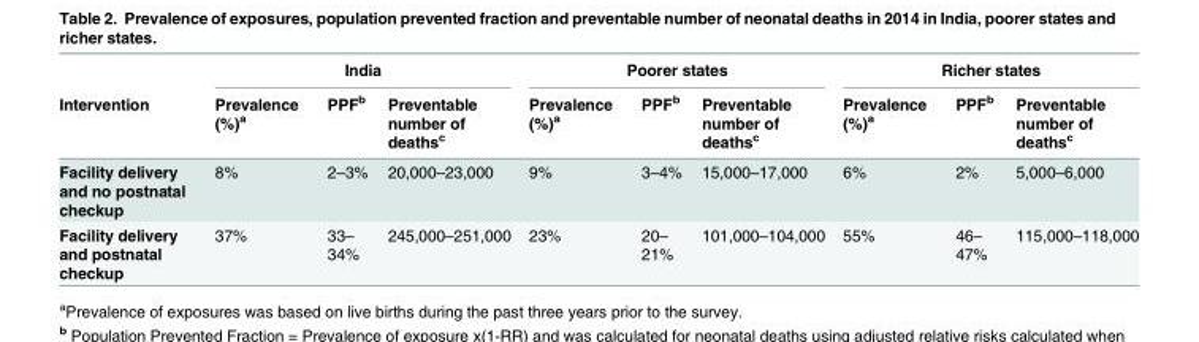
<table><thead><tr><td rowspan="2">Intervention</td><td colspan="3">India</td><td colspan="3">Poorer states</td><td colspan="3">Richer states</td></tr><tr><td>Prevalence (%)<sup>a</sup></td><td>PPF<sup>b</sup></td><td>Preventable number of deaths<sup>c</sup></td><td>Prevalence (%)<sup>a</sup></td><td>PPF<sup>b</sup></td><td>Preventable number of deaths<sup>c</sup></td><td>Prevalence (%)<sup>a</sup></td><td>PPF<sup>b</sup></td><td>Preventable number of deaths<sup>c</sup></td></tr></thead><tbody><tr><td>Facility delivery and no postnatal checkup</td><td>8%</td><td>2–3%</td><td>20,000–23,000</td><td>9%</td><td>3–4%</td><td>15,000–17,000</td><td>6%</td><td>2%</td><td>5,000–6,000</td></tr><tr><td>Facility delivery and postnatal checkup</td><td>37%</td><td>33– 34%</td><td>245,000–251,000</td><td>23%</td><td>20– 21%</td><td>101,000–104,000</td><td>55%</td><td>46– 47%</td><td>115,000–118,000</td></tr></tbody></table>